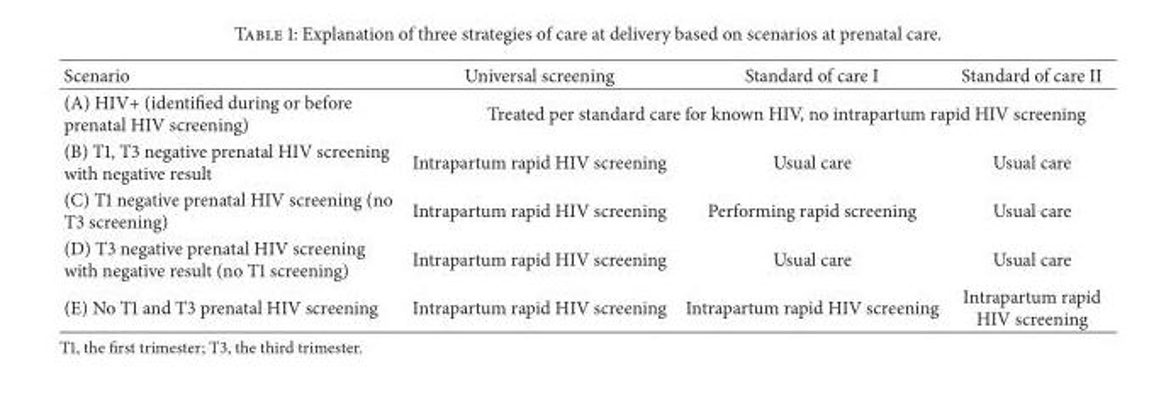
<table><thead><tr><td>Scenario</td><td>Universal screening</td><td>Standard of care I</td><td>Standard of care II</td></tr></thead><tbody><tr><td>(A) HIV+ (identified during or before prenatal HIV screening)</td><td colspan="3">Treated per standard care for known HIV, no intrapartum rapid HIV screening</td></tr><tr><td>(B) T1, T3 negative prenatal HIV screening with negative result</td><td>Intrapartum rapid HIV screening</td><td>Usual care</td><td>Usual care</td></tr><tr><td>(C) T1 negative prenatal HIV screening (no T3 screening)</td><td>Intrapartum rapid HIV screening</td><td>Performing rapid screening</td><td>Usual care</td></tr><tr><td>(D) T3 negative prenatal HIV screening with negative result (no T1 screening)</td><td>Intrapartum rapid HIV screening</td><td>Usual care</td><td>Usual care</td></tr><tr><td>(E) No T1 and T3 prenatal HIV screening</td><td>Intrapartum rapid HIV screening</td><td>Intrapartum rapid HIV screening</td><td>Intrapartum rapid HIV screening</td></tr></tbody></table>